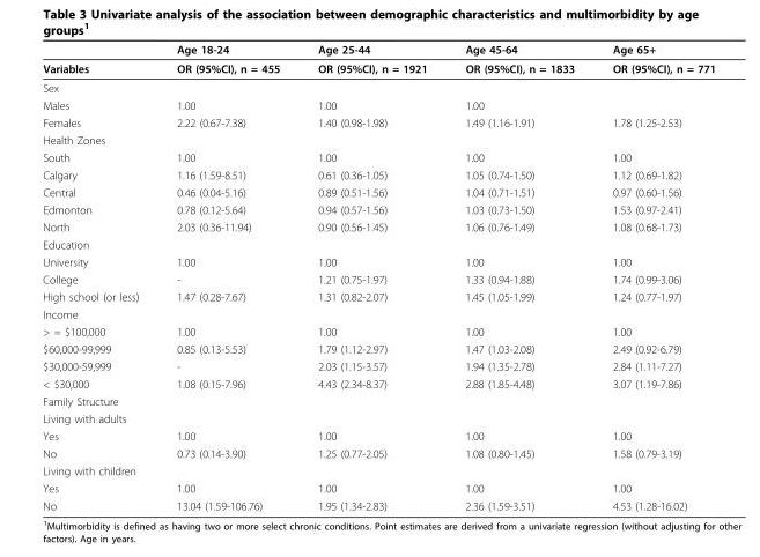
<table><thead><tr><td></td><td>Age 18-24</td><td>Age 25-44</td><td>Age 45-64</td><td>Age 65+</td></tr></thead><tbody><tr><td>Variables</td><td>OR (95%CI), n = 455</td><td>OR (95%CI), n = 1921</td><td>OR (95%CI), n = 1833</td><td>OR (95%CI), n = 771</td></tr><tr><td colspan="5">Sex</td></tr><tr><td>Males</td><td>1.00</td><td>1.00</td><td>1.00</td><td></td></tr><tr><td>Females</td><td>2.22 (0.67-7.38)</td><td>1.40 (0.98-1.98)</td><td>1.49 (1.16-1.91)</td><td>1.78 (1.25-2.53)</td></tr><tr><td colspan="5">Health Zones</td></tr><tr><td>South</td><td>1.00</td><td>1.00</td><td>1.00</td><td>1.00</td></tr><tr><td>Calgary</td><td>1.16 (1.59-8.51)</td><td>0.61 (0.36-1.05)</td><td>1.05 (0.74-1.50)</td><td>1.12 (0.69-1.82)</td></tr><tr><td>Central</td><td>0.46 (0.04-5.16)</td><td>0.89 (0.51-1.56)</td><td>1.04 (0.71-1.51)</td><td>0.97 (0.60-1.56)</td></tr><tr><td>Edmonton</td><td>0.78 (0.12-5.64)</td><td>0.94 (0.57-1.56)</td><td>1.03 (0.73-1.50)</td><td>1.53 (0.97-2.41)</td></tr><tr><td>North</td><td>2.03 (0.36-11.94)</td><td>0.90 (0.56-1.45)</td><td>1.06 (0.76-1.49)</td><td>1.08 (0.68-1.73)</td></tr><tr><td colspan="5">Education</td></tr><tr><td>University</td><td>1.00</td><td>1.00</td><td>1.00</td><td>1.00</td></tr><tr><td>College</td><td>-</td><td>1.21 (0.75-1.97)</td><td>1.33 (0.94-1.88)</td><td>1.74 (0.99-3.06)</td></tr><tr><td>High school (or less)</td><td>1.47 (0.28-7.67)</td><td>1.31 (0.82-2.07)</td><td>1.45 (1.05-1.99)</td><td>1.24 (0.77-1.97)</td></tr><tr><td colspan="5">Income</td></tr><tr><td>&gt; = $100,000</td><td>1.00</td><td>1.00</td><td>1.00</td><td>1.00</td></tr><tr><td>$60,000-99,999</td><td>0.85 (0.13-5.53)</td><td>1.79 (1.12-2.97)</td><td>1.47 (1.03-2.08)</td><td>2.49 (0.92-6.79)</td></tr><tr><td>$30,000-59,999</td><td>-</td><td>2.03 (1.15-3.57)</td><td>1.94 (1.35-2.78)</td><td>2.84 (1.11-7.27)</td></tr><tr><td>&lt; $30,000</td><td>1.08 (0.15-7.96)</td><td>4.43 (2.34-8.37)</td><td>2.88 (1.85-4.48)</td><td>3.07 (1.19-7.86)</td></tr><tr><td colspan="5">Family Structure</td></tr><tr><td colspan="5">Living with adults</td></tr><tr><td>Yes</td><td>1.00</td><td>1.00</td><td>1.00</td><td>1.00</td></tr><tr><td>No</td><td>0.73 (0.14-3.90)</td><td>1.25 (0.77-2.05)</td><td>1.08 (0.80-1.45)</td><td>1.58 (0.79-3.19)</td></tr><tr><td colspan="5">Living with children</td></tr><tr><td>Yes</td><td>1.00</td><td>1.00</td><td>1.00</td><td>1.00</td></tr><tr><td>No</td><td>13.04 (1.59-106.76)</td><td>1.95 (1.34-2.83)</td><td>2.36 (1.59-3.51)</td><td>4.53 (1.28-16.02)</td></tr></tbody></table>